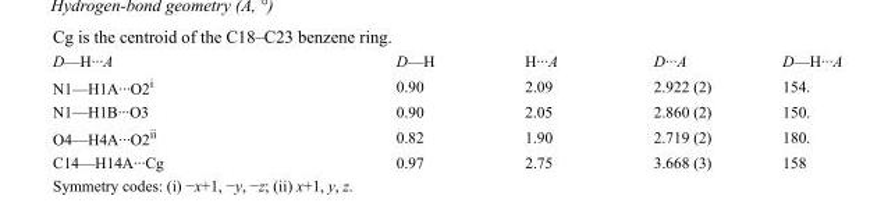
<table><tbody><tr><td>D—H···A</td><td>D—H</td><td>H···A</td><td>D···A</td><td>D—H···A</td></tr><tr><td>N1—H1A···O2<sup>i</sup></td><td>0.90</td><td>2.09</td><td>2.922 (2)</td><td>154.</td></tr><tr><td>N1—H1B···O3</td><td>0.90</td><td>2.05</td><td>2.860 (2)</td><td>150.</td></tr><tr><td>O4—H4A···O2<sup>ii</sup></td><td>0.82</td><td>1.90</td><td>2.719 (2)</td><td>180.</td></tr><tr><td>C14—H14A···Cg</td><td>0.97</td><td>2.75</td><td>3.668 (3)</td><td>158</td></tr></tbody></table>